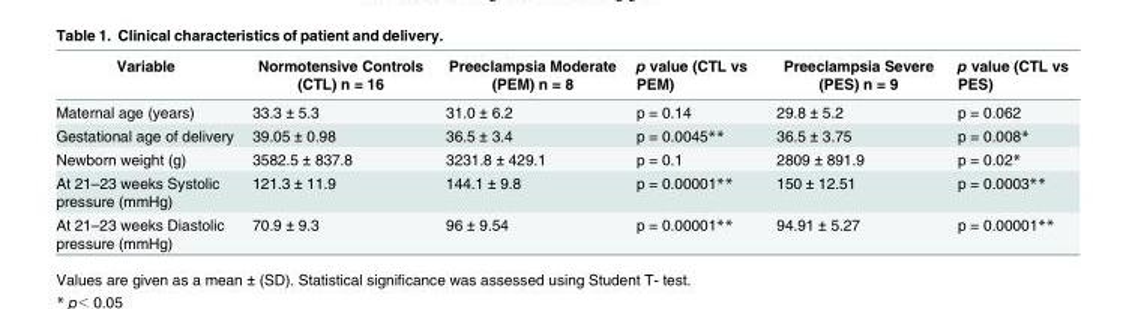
<table><thead><tr><td>Variable</td><td>Normotensive Controls (CTL) n = 16</td><td>Preeclampsia Moderate (PEM) n = 8</td><td>p value (CTL vs PEM)</td><td>Preeclampsia Severe (PES) n = 9</td><td>p value (CTL vs PES)</td></tr></thead><tbody><tr><td>Maternal age (years)</td><td>33.3 ± 5.3</td><td>31.0 ± 6.2</td><td>p = 0.14</td><td>29.8 ± 5.2</td><td>p = 0.062</td></tr><tr><td>Gestational age of delivery</td><td>39.05 ± 0.98</td><td>36.5 ± 3.4</td><td>p = 0.0045**</td><td>36.5 ± 3.75</td><td>p = 0.008*</td></tr><tr><td>Newborn weight (g)</td><td>3582.5 ± 837.8</td><td>3231.8 ± 429.1</td><td>p = 0.1</td><td>2809 ± 891.9</td><td>p = 0.02*</td></tr><tr><td>At 21–23 weeks Systolic pressure (mmHg)</td><td>121.3 ± 11.9</td><td>144.1 ± 9.8</td><td>p = 0.00001**</td><td>150 ± 12.51</td><td>p = 0.0003**</td></tr><tr><td>At 21–23 weeks Diastolic pressure (mmHg)</td><td>70.9 ± 9.3</td><td>96 ± 9.54</td><td>p = 0.00001**</td><td>94.91 ± 5.27</td><td>p = 0.00001**</td></tr></tbody></table>